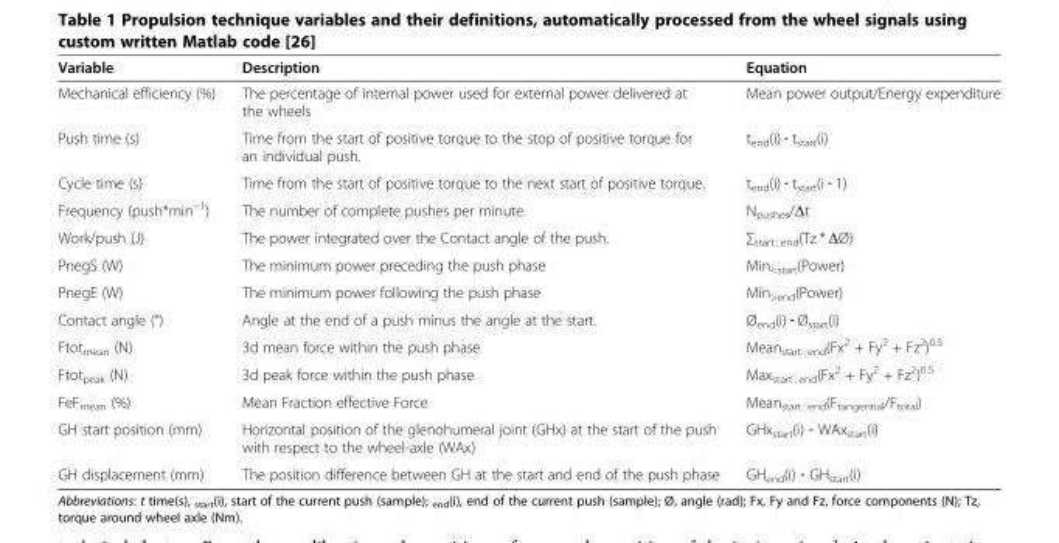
<table><thead><tr><td>Variable</td><td>Description</td><td>Equation</td></tr></thead><tbody><tr><td>Mechanical efficiency (%)</td><td>The percentage of internal power used for external power delivered at the wheels</td><td>Mean power output/Energy expenditure</td></tr><tr><td>Push time (s)</td><td>Time from the start of positive torque to the stop of positive torque for an individual push.</td><td>t<sub>end</sub>(i) ‐ t<sub>start</sub>(i)</td></tr><tr><td>Cycle time (s)</td><td>Time from the start of positive torque to the next start of positive torque.</td><td>t<sub>end</sub>(i) ‐ t<sub>start</sub>(i ‐ 1)</td></tr><tr><td>Frequency (push*min<sup>−1</sup>)</td><td>The number of complete pushes per minute.</td><td>N<sub>pushes</sub>/Δt</td></tr><tr><td>Work/push (J)</td><td>The power integrated over the Contact angle of the push.</td><td>∑<sub>start : end</sub>(Tz * ΔØ)</td></tr><tr><td>PnegS (W)</td><td>The minimum power preceding the push phase</td><td>Min<sub>&lt;start</sub>(Power)</td></tr><tr><td>PnegE (W)</td><td>The minimum power following the push phase</td><td>Min<sub>&gt;end</sub>(Power)</td></tr><tr><td>Contact angle (°)</td><td>Angle at the end of a push minus the angle at the start.</td><td>Ø<sub>end</sub>(i) ‐ Ø<sub>start</sub>(i)</td></tr><tr><td>Ftot<sub>mean</sub> (N)</td><td>3d mean force within the push phase</td><td>Mean<sub>start : end</sub>(Fx<sup>2</sup> + Fy<sup>2</sup> + Fz<sup>2</sup>)<sup>0.5</sup></td></tr><tr><td>Ftot<sub>peak</sub> (N)</td><td>3d peak force within the push phase</td><td>Max<sub>start : end</sub>(Fx<sup>2</sup> + Fy<sup>2</sup> + Fz<sup>2</sup>)<sup>0.5</sup></td></tr><tr><td>FeF<sub>mean</sub> (%)</td><td>Mean Fraction effective Force</td><td>Mean<sub>start : end</sub>(F<sub>tangential</sub>/F<sub>total</sub>)</td></tr><tr><td>GH start position (mm)</td><td>Horizontal position of the glenohumeral joint (GHx) at the start of the push with respect to the wheel-axle (WAx)</td><td>GHx<sub>start</sub>(i) ‐ WAx<sub>start</sub>(i)</td></tr><tr><td>GH displacement (mm)</td><td>The position difference between GH at the start and end of the push phase</td><td>GH<sub>end</sub>(i) ‐ GH<sub>start</sub>(i)</td></tr></tbody></table>